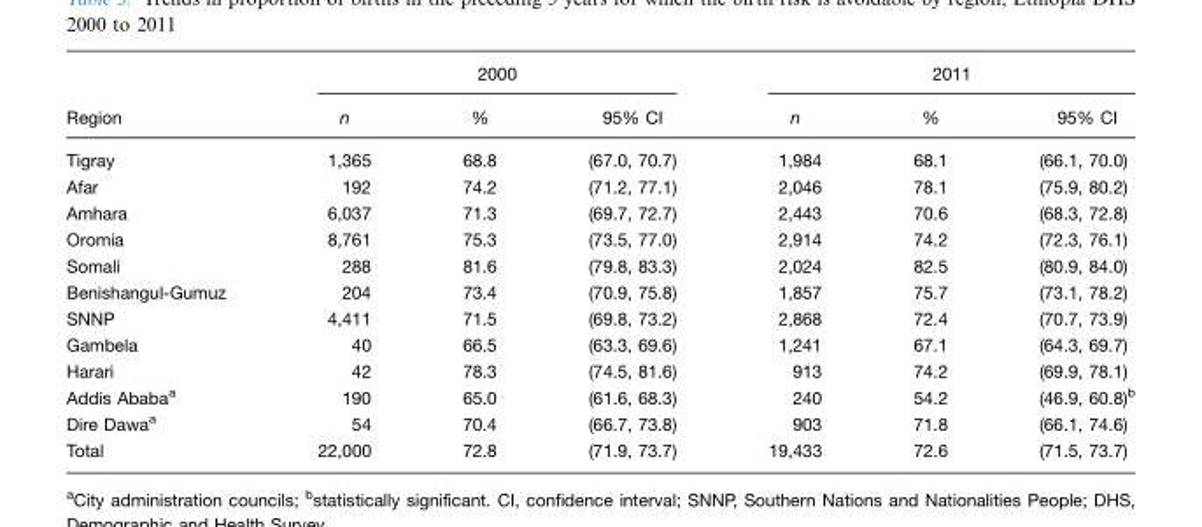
<table><thead><tr><td rowspan="2">Region</td><td colspan="3">2000</td><td colspan="3">2011</td></tr><tr><td>n</td><td>%</td><td>95% CI</td><td>n</td><td>%</td><td>95% CI</td></tr></thead><tbody><tr><td>Tigray</td><td>1,365</td><td>68.8</td><td>(67.0, 70.7)</td><td>1,984</td><td>68.1</td><td>(66.1, 70.0)</td></tr><tr><td>Afar</td><td>192</td><td>74.2</td><td>(71.2, 77.1)</td><td>2,046</td><td>78.1</td><td>(75.9, 80.2)</td></tr><tr><td>Amhara</td><td>6,037</td><td>71.3</td><td>(69.7, 72.7)</td><td>2,443</td><td>70.6</td><td>(68.3, 72.8)</td></tr><tr><td>Oromia</td><td>8,761</td><td>75.3</td><td>(73.5, 77.0)</td><td>2,914</td><td>74.2</td><td>(72.3, 76.1)</td></tr><tr><td>Somali</td><td>288</td><td>81.6</td><td>(79.8, 83.3)</td><td>2,024</td><td>82.5</td><td>(80.9, 84.0)</td></tr><tr><td>Benishangul-Gumuz</td><td>204</td><td>73.4</td><td>(70.9, 75.8)</td><td>1,857</td><td>75.7</td><td>(73.1, 78.2)</td></tr><tr><td>SNNP</td><td>4,411</td><td>71.5</td><td>(69.8, 73.2)</td><td>2,868</td><td>72.4</td><td>(70.7, 73.9)</td></tr><tr><td>Gambela</td><td>40</td><td>66.5</td><td>(63.3, 69.6)</td><td>1,241</td><td>67.1</td><td>(64.3, 69.7)</td></tr><tr><td>Harari</td><td>42</td><td>78.3</td><td>(74.5, 81.6)</td><td>913</td><td>74.2</td><td>(69.9, 78.1)</td></tr><tr><td>Addis Ababa<sup>a</sup></td><td>190</td><td>65.0</td><td>(61.6, 68.3)</td><td>240</td><td>54.2</td><td>(46.9, 60.8)<sup>b</sup></td></tr><tr><td>Dire Dawa<sup>a</sup></td><td>54</td><td>70.4</td><td>(66.7, 73.8)</td><td>903</td><td>71.8</td><td>(66.1, 74.6)</td></tr><tr><td>Total</td><td>22,000</td><td>72.8</td><td>(71.9, 73.7)</td><td>19,433</td><td>72.6</td><td>(71.5, 73.7)</td></tr></tbody></table>